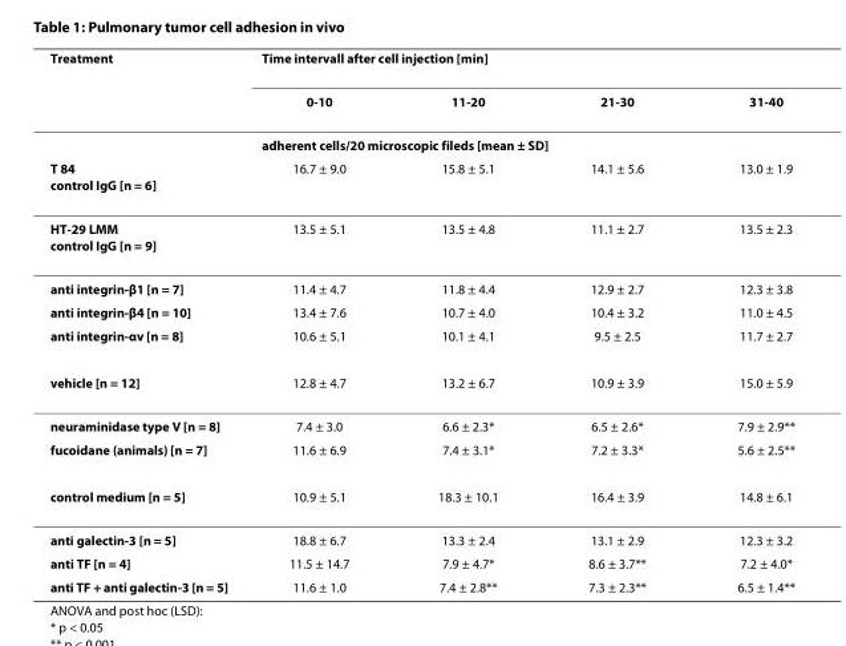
<table><thead><tr><td rowspan="2">Treatment</td><td colspan="4">Time intervall after cell injection [min]</td></tr><tr><td>0-10</td><td>11-20</td><td>21-30</td><td>31-40</td></tr></thead><tbody><tr><td></td><td colspan="4">adherent cells/20 microscopic fileds [mean ± SD]</td></tr><tr><td>T 84 control IgG [n = 6]</td><td>16.7 ± 9.0</td><td>15.8 ± 5.1</td><td>14.1 ± 5.6</td><td>13.0 ± 1.9</td></tr><tr><td>HT-29 LMM control IgG [n = 9]</td><td>13.5 ± 5.1</td><td>13.5 ± 4.8</td><td>11.1 ± 2.7</td><td>13.5 ± 2.3</td></tr><tr><td>anti integrin-β1 [n = 7]</td><td>11.4 ± 4.7</td><td>11.8 ± 4.4</td><td>12.9 ± 2.7</td><td>12.3 ± 3.8</td></tr><tr><td>anti integrin-β4 [n = 10]</td><td>13.4 ± 7.6</td><td>10.7 ± 4.0</td><td>10.4 ± 3.2</td><td>11.0 ± 4.5</td></tr><tr><td>anti integrin-αv [n = 8]</td><td>10.6 ± 5.1</td><td>10.1 ± 4.1</td><td>9.5 ± 2.5</td><td>11.7 ± 2.7</td></tr><tr><td>vehicle [n = 12]</td><td>12.8 ± 4.7</td><td>13.2 ± 6.7</td><td>10.9 ± 3.9</td><td>15.0 ± 5.9</td></tr><tr><td>neuraminidase type V [n = 8]</td><td>7.4 ± 3.0</td><td>6.6 ± 2.3*</td><td>6.5 ± 2.6*</td><td>7.9 ± 2.9**</td></tr><tr><td>fucoidane (animals) [n = 7]</td><td>11.6 ± 6.9</td><td>7.4 ± 3.1*</td><td>7.2 ± 3.3*</td><td>5.6 ± 2.5**</td></tr><tr><td>control medium [n = 5]</td><td>10.9 ± 5.1</td><td>18.3 ± 10.1</td><td>16.4 ± 3.9</td><td>14.8 ± 6.1</td></tr><tr><td>anti galectin-3 [n = 5]</td><td>18.8 ± 6.7</td><td>13.3 ± 2.4</td><td>13.1 ± 2.9</td><td>12.3 ± 3.2</td></tr><tr><td>anti TF [n = 4]</td><td>11.5 ± 14.7</td><td>7.9 ± 4.7*</td><td>8.6 ± 3.7**</td><td>7.2 ± 4.0*</td></tr><tr><td>anti TF + anti galectin-3 [n = 5]</td><td>11.6 ± 1.0</td><td>7.4 ± 2.8**</td><td>7.3 ± 2.3**</td><td>6.5 ± 1.4**</td></tr></tbody></table>